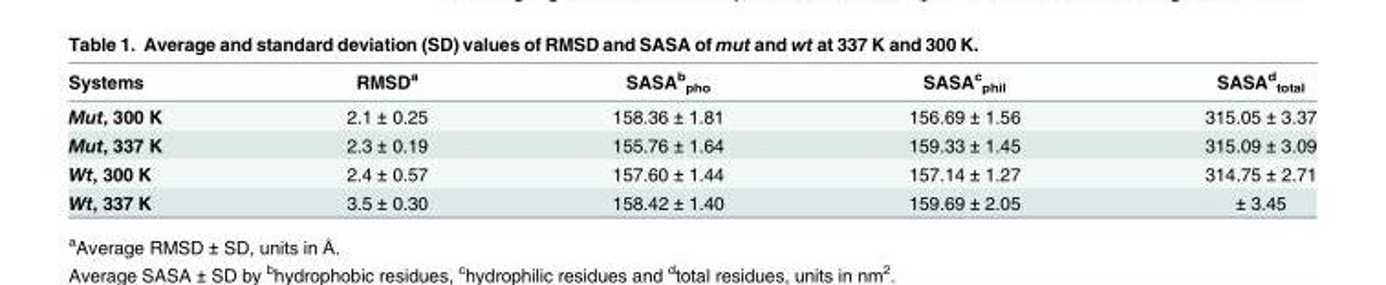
<table><thead><tr><td>Systems</td><td>RMSD<sup>a</sup></td><td>SASA<sup>b</sup> <sub>pho</sub></td><td>SASA<sup>c</sup> <sub>phil</sub></td><td>SASA<sup>d</sup> <sub>total</sub></td></tr></thead><tbody><tr><td>Mut, 300 K</td><td>2.1 ± 0.25</td><td>158.36 ± 1.81</td><td>156.69 ± 1.56</td><td>315.05 ± 3.37</td></tr><tr><td>Mut, 337 K</td><td>2.3 ± 0.19</td><td>155.76 ± 1.64</td><td>159.33 ± 1.45</td><td>315.09 ± 3.09</td></tr><tr><td>Wt, 300 K</td><td>2.4 ± 0.57</td><td>157.60 ± 1.44</td><td>157.14 ± 1.27</td><td>314.75 ± 2.71</td></tr><tr><td>Wt, 337 K</td><td>3.5 ± 0.30</td><td>158.42 ± 1.40</td><td>159.69 ± 2.05</td><td>± 3.45</td></tr></tbody></table>